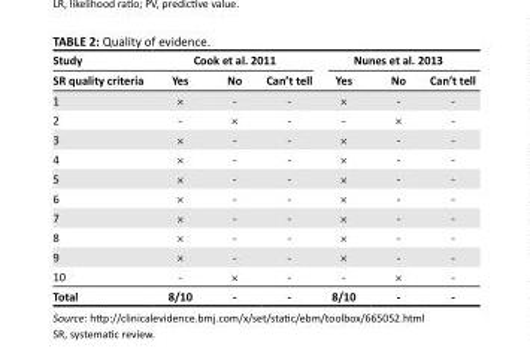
<table><thead><tr><td rowspan="2">Study SR quality criteria</td><td colspan="3">Cook et al. 2011</td><td colspan="3">Nunes et al. 2013</td></tr><tr><td>Yes</td><td>No</td><td>Can’t tell</td><td>Yes</td><td>No</td><td>Can’t tell</td></tr></thead><tbody><tr><td>1</td><td>×</td><td>-</td><td>-</td><td>×</td><td>-</td><td>-</td></tr><tr><td>2</td><td>-</td><td>×</td><td>-</td><td>-</td><td>×</td><td>-</td></tr><tr><td>3</td><td>×</td><td>-</td><td>-</td><td>×</td><td>-</td><td>-</td></tr><tr><td>4</td><td>×</td><td>-</td><td>-</td><td>×</td><td>-</td><td>-</td></tr><tr><td>5</td><td>×</td><td>-</td><td>-</td><td>×</td><td>-</td><td>-</td></tr><tr><td>6</td><td>×</td><td>-</td><td>-</td><td>×</td><td>-</td><td>-</td></tr><tr><td>7</td><td>×</td><td>-</td><td>-</td><td>×</td><td>-</td><td>-</td></tr><tr><td>8</td><td>×</td><td>-</td><td>-</td><td>×</td><td>-</td><td>-</td></tr><tr><td>9</td><td>×</td><td>-</td><td>-</td><td>×</td><td>-</td><td>-</td></tr><tr><td>10</td><td>-</td><td>×</td><td>-</td><td>-</td><td>×</td><td>-</td></tr><tr><td>Total</td><td>8/10</td><td>-</td><td>-</td><td>8/10</td><td>-</td><td>-</td></tr></tbody></table>